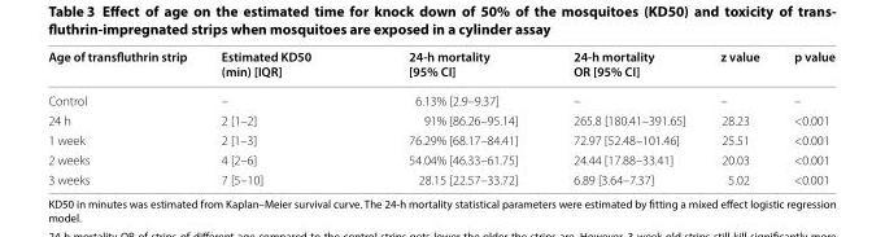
<table><thead><tr><td>Age of transfluthrin strip</td><td>Estimated KD50 (min) [IQR]</td><td>24‑h mortality [95% CI]</td><td>24‑h mortality OR [95% CI]</td><td>z value</td><td>p value</td></tr></thead><tbody><tr><td>Control</td><td>–</td><td>6.13% [2.9–9.37]</td><td>–</td><td>–</td><td>–</td></tr><tr><td>24 h</td><td>2 [1–2]</td><td>91% [86.26–95.14]</td><td>265.8 [180.41–391.65]</td><td>28.23</td><td>&lt;0.001</td></tr><tr><td>1 week</td><td>2 [1–3]</td><td>76.29% [68.17–84.41]</td><td>72.97 [52.48–101.46]</td><td>25.51</td><td>&lt;0.001</td></tr><tr><td>2 weeks</td><td>4 [2–6]</td><td>54.04% [46.33–61.75]</td><td>24.44 [17.88–33.41]</td><td>20.03</td><td>&lt;0.001</td></tr><tr><td>3 weeks</td><td>7 [5–10]</td><td>28.15 [22.57–33.72]</td><td>6.89 [3.64–7.37]</td><td>5.02</td><td>&lt;0.001</td></tr></tbody></table>